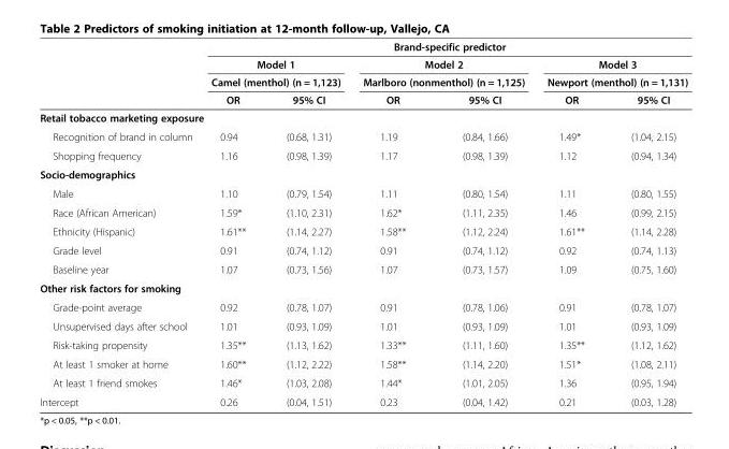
<table><thead><tr><td rowspan="4"></td><td colspan="6">Brand-specific predictor</td></tr><tr><td rowspan="2" colspan="2">Model 1 Camel (menthol) (n = 1,123)</td><td rowspan="2" colspan="2">Model 2 Marlboro (nonmenthol) (n = 1,125)</td><td rowspan="2" colspan="2">Model 3 Newport (menthol) (n = 1,131)</td></tr><tr></tr><tr><td>OR</td><td>95% CI</td><td>OR</td><td>95% CI</td><td>OR</td><td>95% CI</td></tr></thead><tbody><tr><td colspan="7">Retail tobacco marketing exposure</td></tr><tr><td>Recognition of brand in column</td><td>0.94</td><td>(0.68, 1.31)</td><td>1.19</td><td>(0.84, 1.66)</td><td>1.49*</td><td>(1.04, 2.15)</td></tr><tr><td>Shopping frequency</td><td>1.16</td><td>(0.98, 1.39)</td><td>1.17</td><td>(0.98, 1.39)</td><td>1.12</td><td>(0.94, 1.34)</td></tr><tr><td colspan="7">Socio-demographics</td></tr><tr><td>Male</td><td>1.10</td><td>(0.79, 1.54)</td><td>1.11</td><td>(0.80, 1.54)</td><td>1.11</td><td>(0.80, 1.55)</td></tr><tr><td>Race (African American)</td><td>1.59*</td><td>(1.10, 2.31)</td><td>1.62*</td><td>(1.11, 2.35)</td><td>1.46</td><td>(0.99, 2.15)</td></tr><tr><td>Ethnicity (Hispanic)</td><td>1.61**</td><td>(1.14, 2.27)</td><td>1.58**</td><td>(1.12, 2.24)</td><td>1.61**</td><td>(1.14, 2.28)</td></tr><tr><td>Grade level</td><td>0.91</td><td>(0.74, 1.12)</td><td>0.91</td><td>(0.74, 1.12)</td><td>0.92</td><td>(0.74, 1.13)</td></tr><tr><td>Baseline year</td><td>1.07</td><td>(0.73, 1.56)</td><td>1.07</td><td>(0.73, 1.57)</td><td>1.09</td><td>(0.75, 1.60)</td></tr><tr><td colspan="7">Other risk factors for smoking</td></tr><tr><td>Grade-point average</td><td>0.92</td><td>(0.78, 1.07)</td><td>0.91</td><td>(0.78, 1.06)</td><td>0.91</td><td>(0.78, 1.07)</td></tr><tr><td>Unsupervised days after school</td><td>1.01</td><td>(0.93, 1.09)</td><td>1.01</td><td>(0.93, 1.09)</td><td>1.01</td><td>(0.93, 1.09)</td></tr><tr><td>Risk-taking propensity</td><td>1.35**</td><td>(1.13, 1.62)</td><td>1.33**</td><td>(1.11, 1.60)</td><td>1.35**</td><td>(1.12, 1.62)</td></tr><tr><td>At least 1 smoker at home</td><td>1.60**</td><td>(1.12, 2.22)</td><td>1.58**</td><td>(1.14, 2.20)</td><td>1.51*</td><td>(1.08, 2.11)</td></tr><tr><td>At least 1 friend smokes</td><td>1.46*</td><td>(1.03, 2.08)</td><td>1.44*</td><td>(1.01, 2.05)</td><td>1.36</td><td>(0.95, 1.94)</td></tr><tr><td>Intercept</td><td>0.26</td><td>(0.04, 1.51)</td><td>0.23</td><td>(0.04, 1.42)</td><td>0.21</td><td>(0.03, 1.28)</td></tr></tbody></table>